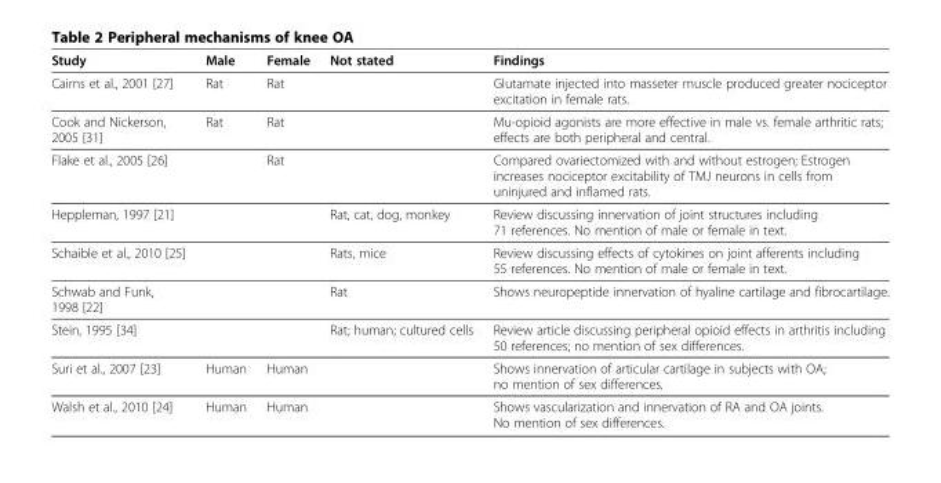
<table><thead><tr><td>Study</td><td>Male</td><td>Female</td><td>Not stated</td><td>Findings</td></tr></thead><tbody><tr><td>Cairns et al., 2001 [27]</td><td>Rat</td><td>Rat</td><td></td><td>Glutamate injected into masseter muscle produced greater nociceptor excitation in female rats.</td></tr><tr><td>Cook and Nickerson, 2005 [31]</td><td>Rat</td><td>Rat</td><td></td><td>Mu-opioid agonists are more effective in male vs. female arthritic rats; effects are both peripheral and central.</td></tr><tr><td>Flake et al., 2005 [26]</td><td></td><td>Rat</td><td></td><td>Compared ovariectomized with and without estrogen; Estrogen increases nociceptor excitability of TMJ neurons in cells from uninjured and inflamed rats.</td></tr><tr><td>Heppleman, 1997 [21]</td><td></td><td></td><td>Rat, cat, dog, monkey</td><td>Review discussing innervation of joint structures including 71 references. No mention of male or female in text.</td></tr><tr><td>Schaible et al., 2010 [25]</td><td></td><td></td><td>Rats, mice</td><td>Review discussing effects of cytokines on joint afferents including 55 references. No mention of male or female in text.</td></tr><tr><td>Schwab and Funk, 1998 [22]</td><td></td><td></td><td>Rat</td><td>Shows neuropeptide innervation of hyaline cartilage and fibrocartilage.</td></tr><tr><td>Stein, 1995 [34]</td><td></td><td></td><td>Rat; human; cultured cells</td><td>Review article discussing peripheral opioid effects in arthritis including 50 references; no mention of sex differences.</td></tr><tr><td>Suri et al., 2007 [23]</td><td>Human</td><td>Human</td><td></td><td>Shows innervation of articular cartilage in subjects with OA; no mention of sex differences.</td></tr><tr><td>Walsh et al., 2010 [24]</td><td>Human</td><td>Human</td><td></td><td>Shows vascularization and innervation of RA and OA joints. No mention of sex differences.</td></tr></tbody></table>